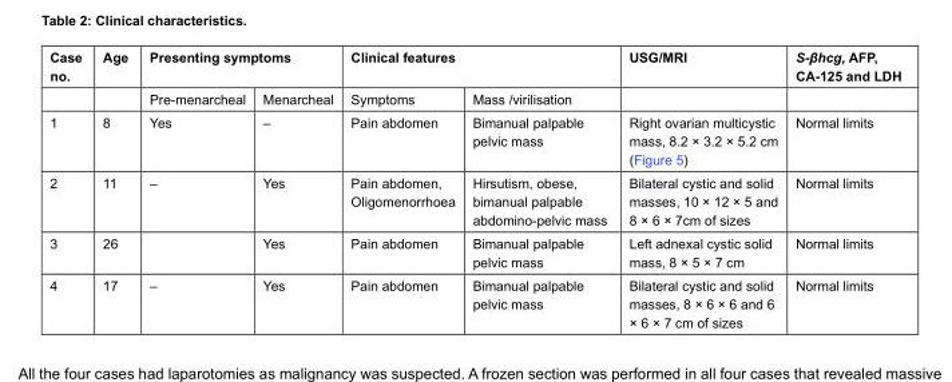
<table><thead><tr><td rowspan="2">Case no.</td><td rowspan="2">Age</td><td colspan="2">Presenting symptoms</td><td colspan="2">Clinical features</td><td rowspan="2">USG/MRI</td><td rowspan="2">S-βhcg, AFP, CA-125 and LDH</td></tr><tr><td>Pre-menarcheal</td><td>Menarcheal</td><td>Symptoms</td><td>Mass /virilisation</td></tr></thead><tbody><tr><td>1</td><td>8</td><td>Yes</td><td>–</td><td>Pain abdomen</td><td>Bimanual palpable pelvic mass</td><td>Right ovarian multicystic mass, 8.2 × 3.2 × 5.2 cm (Figure 5)</td><td>Normal limits</td></tr><tr><td>2</td><td>11</td><td>–</td><td>Yes</td><td>Pain abdomen, Oligomenorrhoea</td><td>Hirsutism, obese, bimanual palpable abdomino-pelvic mass</td><td>Bilateral cystic and solid masses, 10 × 12 × 5 and 8 × 6 × 7cm of sizes</td><td>Normal limits</td></tr><tr><td>3</td><td>26</td><td></td><td>Yes</td><td>Pain abdomen</td><td>Bimanual palpable pelvic mass</td><td>Left adnexal cystic solid mass, 8 × 5 × 7 cm</td><td>Normal limits</td></tr><tr><td>4</td><td>17</td><td>–</td><td>Yes</td><td>Pain abdomen</td><td>Bimanual palpable pelvic mass</td><td>Bilateral cystic and solid masses, 8 × 6 × 6 and 6 × 6 × 7 cm of sizes</td><td>Normal limits</td></tr></tbody></table>